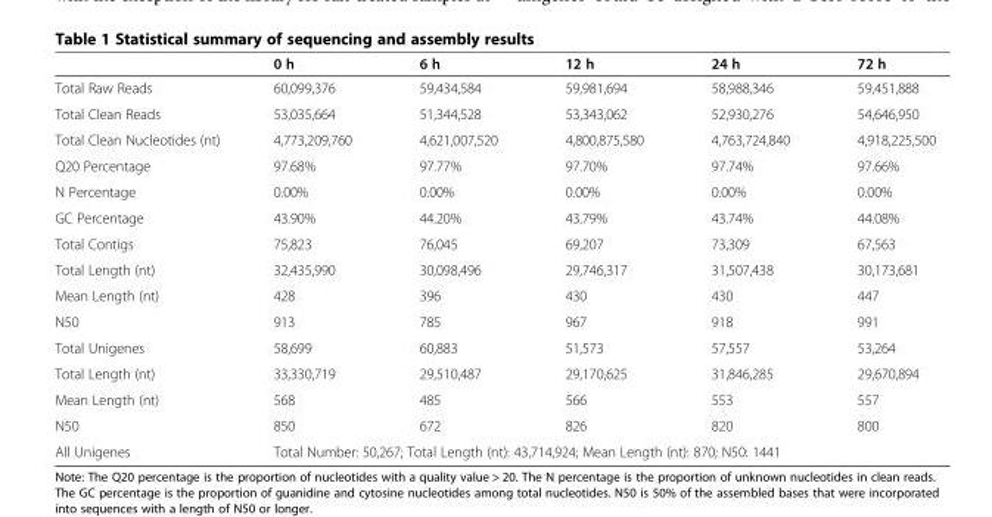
<table><thead><tr><td></td><td>0 h</td><td>6 h</td><td>12 h</td><td>24 h</td><td>72 h</td></tr></thead><tbody><tr><td>Total Raw Reads</td><td>60,099,376</td><td>59,434,584</td><td>59,981,694</td><td>58,988,346</td><td>59,451,888</td></tr><tr><td>Total Clean Reads</td><td>53,035,664</td><td>51,344,528</td><td>53,343,062</td><td>52,930,276</td><td>54,646,950</td></tr><tr><td>Total Clean Nucleotides (nt)</td><td>4,773,209,760</td><td>4,621,007,520</td><td>4,800,875,580</td><td>4,763,724,840</td><td>4,918,225,500</td></tr><tr><td>Q20 Percentage</td><td>97.68%</td><td>97.77%</td><td>97.70%</td><td>97.74%</td><td>97.66%</td></tr><tr><td>N Percentage</td><td>0.00%</td><td>0.00%</td><td>0.00%</td><td>0.00%</td><td>0.00%</td></tr><tr><td>GC Percentage</td><td>43.90%</td><td>44.20%</td><td>43.79%</td><td>43.74%</td><td>44.08%</td></tr><tr><td>Total Contigs</td><td>75,823</td><td>76,045</td><td>69,207</td><td>73,309</td><td>67,563</td></tr><tr><td>Total Length (nt)</td><td>32,435,990</td><td>30,098,496</td><td>29,746,317</td><td>31,507,438</td><td>30,173,681</td></tr><tr><td>Mean Length (nt)</td><td>428</td><td>396</td><td>430</td><td>430</td><td>447</td></tr><tr><td>N50</td><td>913</td><td>785</td><td>967</td><td>918</td><td>991</td></tr><tr><td>Total Unigenes</td><td>58,699</td><td>60,883</td><td>51,573</td><td>57,557</td><td>53,264</td></tr><tr><td>Total Length (nt)</td><td>33,330,719</td><td>29,510,487</td><td>29,170,625</td><td>31,846,285</td><td>29,670,894</td></tr><tr><td>Mean Length (nt)</td><td>568</td><td>485</td><td>566</td><td>553</td><td>557</td></tr><tr><td>N50</td><td>850</td><td>672</td><td>826</td><td>820</td><td>800</td></tr><tr><td>All Unigenes</td><td colspan="5">Total Number: 50,267; Total Length (nt): 43,714,924; Mean Length (nt): 870; N50: 1441</td></tr></tbody></table>